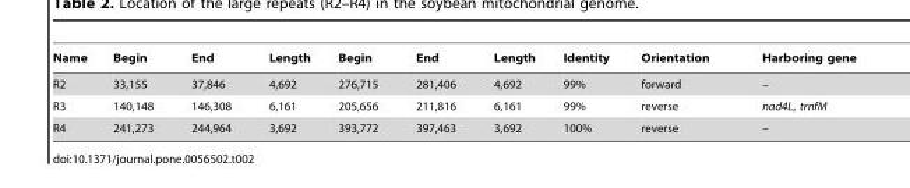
<table><thead><tr><td>Name</td><td>Begin</td><td>End</td><td>Length</td><td>Begin</td><td>End</td><td>Length</td><td>Identity</td><td>Orientation</td><td>Harboring gene</td></tr></thead><tbody><tr><td>R2</td><td>33,155</td><td>37,846</td><td>4,692</td><td>276,715</td><td>281,406</td><td>4,692</td><td>99%</td><td>forward</td><td>–</td></tr><tr><td>R3</td><td>140,148</td><td>146,308</td><td>6,161</td><td>205,656</td><td>211,816</td><td>6,161</td><td>99%</td><td>reverse</td><td>nad4L, trnfM</td></tr><tr><td>R4</td><td>241,273</td><td>244,964</td><td>3,692</td><td>393,772</td><td>397,463</td><td>3,692</td><td>100%</td><td>reverse</td><td>–</td></tr></tbody></table>